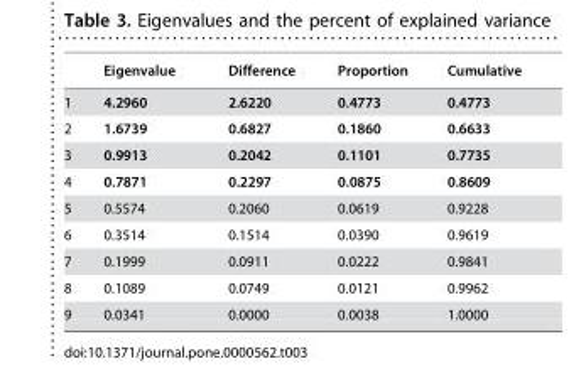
<table><thead><tr><td></td><td>Eigenvalue</td><td>Difference</td><td>Proportion</td><td>Cumulative</td></tr></thead><tbody><tr><td>1</td><td>4.2960</td><td>2.6220</td><td>0.4773</td><td>0.4773</td></tr><tr><td>2</td><td>1.6739</td><td>0.6827</td><td>0.1860</td><td>0.6633</td></tr><tr><td>3</td><td>0.9913</td><td>0.2042</td><td>0.1101</td><td>0.7735</td></tr><tr><td>4</td><td>0.7871</td><td>0.2297</td><td>0.0875</td><td>0.8609</td></tr><tr><td>5</td><td>0.5574</td><td>0.2060</td><td>0.0619</td><td>0.9228</td></tr><tr><td>6</td><td>0.3514</td><td>0.1514</td><td>0.0390</td><td>0.9619</td></tr><tr><td>7</td><td>0.1999</td><td>0.0911</td><td>0.0222</td><td>0.9841</td></tr><tr><td>8</td><td>0.1089</td><td>0.0749</td><td>0.0121</td><td>0.9962</td></tr><tr><td>9</td><td>0.0341</td><td>0.0000</td><td>0.0038</td><td>1.0000</td></tr></tbody></table>